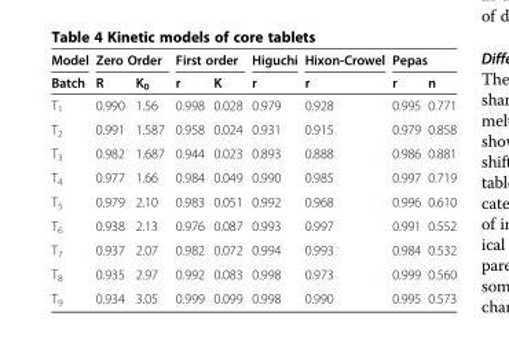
<table><thead><tr><td rowspan="2">Model Batch</td><td colspan="2">Zero Order</td><td colspan="2">First order</td><td rowspan="2">Higuchi r</td><td rowspan="2">Hixon-Crowel r</td><td colspan="2">Pepas</td></tr><tr><td>R</td><td>K<sub>0</sub></td><td>r</td><td>K</td><td>r</td><td>n</td></tr></thead><tbody><tr><td>T<sub>1</sub></td><td>0.990</td><td>1.56</td><td>0.998</td><td>0.028</td><td>0.979</td><td>0.928</td><td>0.995</td><td>0.771</td></tr><tr><td>T<sub>2</sub></td><td>0.991</td><td>1.587</td><td>0.958</td><td>0.024</td><td>0.931</td><td>0.915</td><td>0.979</td><td>0.858</td></tr><tr><td>T<sub>3</sub></td><td>0.982</td><td>1.687</td><td>0.944</td><td>0.023</td><td>0.893</td><td>0.888</td><td>0.986</td><td>0.881</td></tr><tr><td>T<sub>4</sub></td><td>0.977</td><td>1.66</td><td>0.984</td><td>0.049</td><td>0.990</td><td>0.985</td><td>0.997</td><td>0.719</td></tr><tr><td>T<sub>5</sub></td><td>0.979</td><td>2.10</td><td>0.983</td><td>0.051</td><td>0.992</td><td>0.968</td><td>0.996</td><td>0.610</td></tr><tr><td>T<sub>6</sub></td><td>0.938</td><td>2.13</td><td>0.976</td><td>0.087</td><td>0.993</td><td>0.997</td><td>0.991</td><td>0.552</td></tr><tr><td>T<sub>7</sub></td><td>0.937</td><td>2.07</td><td>0.982</td><td>0.072</td><td>0.994</td><td>0.993</td><td>0.984</td><td>0.532</td></tr><tr><td>T<sub>8</sub></td><td>0.935</td><td>2.97</td><td>0.992</td><td>0.083</td><td>0.998</td><td>0.973</td><td>0.999</td><td>0.560</td></tr><tr><td>T<sub>9</sub></td><td>0.934</td><td>3.05</td><td>0.999</td><td>0.099</td><td>0.998</td><td>0.990</td><td>0.995</td><td>0.573</td></tr></tbody></table>